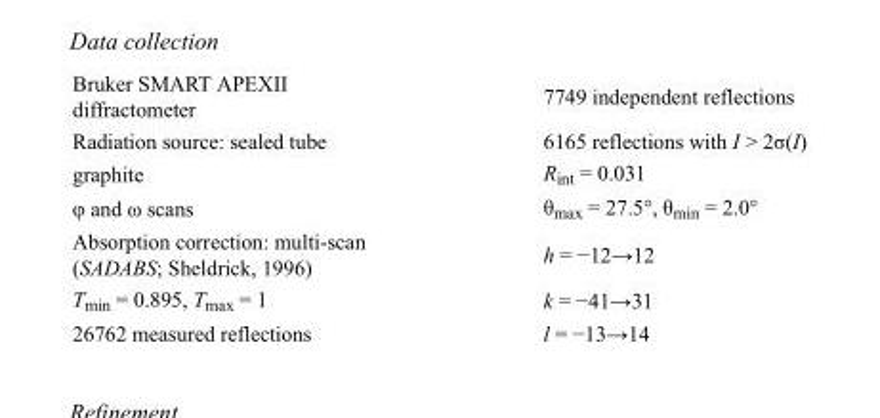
<table><tbody><tr><td>Bruker SMART APEXII diffractometer</td><td>7749 independent reflections</td></tr><tr><td>Radiation source: sealed tube</td><td>6165 reflections with I &gt; 2σ(I)</td></tr><tr><td>graphite</td><td>R<sub>int</sub> = 0.031</td></tr><tr><td>φ and ω scans</td><td>θ<sub>max</sub> = 27.5°, θ<sub>min</sub> = 2.0°</td></tr><tr><td>Absorption correction: multi-scan (SADABS; Sheldrick, 1996)</td><td>h = −12→12</td></tr><tr><td>T<sub>min</sub> = 0.895, T<sub>max</sub> = 1</td><td>k = −41→31</td></tr><tr><td>26762 measured reflections</td><td>l = −13→14</td></tr></tbody></table>